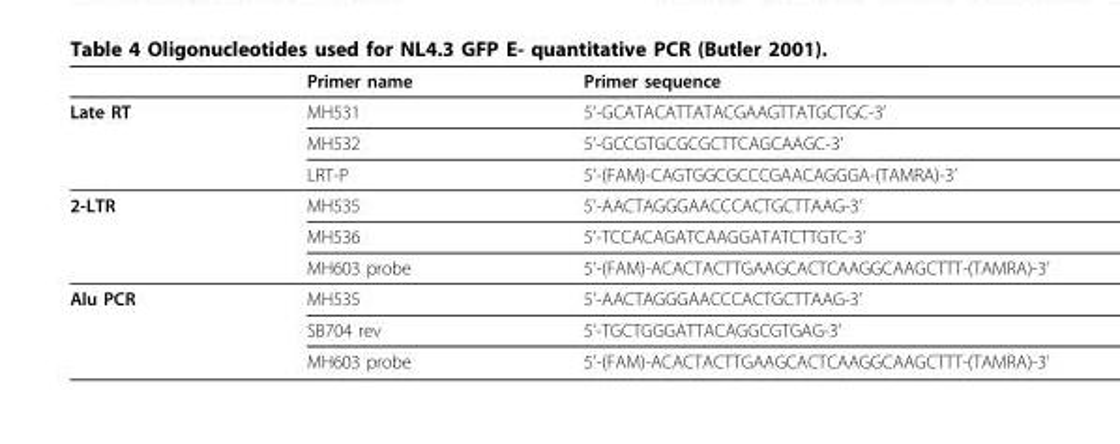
<table><thead><tr><td></td><td>Primer name</td><td>Primer sequence</td></tr></thead><tbody><tr><td rowspan="3">Late RT</td><td>MH531</td><td>5’-GCATACATTATACGAAGTTATGCTGC-3’</td></tr><tr><td>MH532</td><td>5’-GCCGTGCGCGCTTCAGCAAGC-3’</td></tr><tr><td>LRT-P</td><td>5’-(FAM)-CAGTGGCGCCCGAACAGGGA-(TAMRA)-3’</td></tr><tr><td rowspan="3">2-LTR</td><td>MH535</td><td>5’-AACTAGGGAACCCACTGCTTAAG-3’</td></tr><tr><td>MH536</td><td>5’-TCCACAGATCAAGGATATCTTGTC-3’</td></tr><tr><td>MH603 probe</td><td>5’-(FAM)-ACACTACTTGAAGCACTCAAGGCAAGCTTT-(TAMRA)-3’</td></tr><tr><td rowspan="3">Alu PCR</td><td>MH535</td><td>5’-AACTAGGGAACCCACTGCTTAAG-3’</td></tr><tr><td>SB704 rev</td><td>5’-TGCTGGGATTACAGGCGTGAG-3’</td></tr><tr><td>MH603 probe</td><td>5’-(FAM)-ACACTACTTGAAGCACTCAAGGCAAGCTTT-(TAMRA)-3’</td></tr></tbody></table>